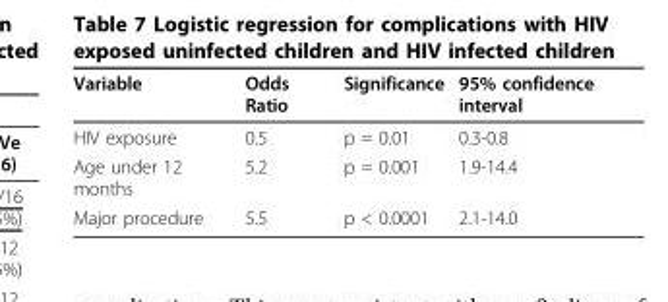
<table><thead><tr><td>Variable</td><td>Odds Ratio</td><td>Significance</td><td>95% confidence interval</td></tr></thead><tbody><tr><td>HIV exposure</td><td>0.5</td><td>p = 0.01</td><td>0.3-0.8</td></tr><tr><td>Age under 12 months</td><td>5.2</td><td>p = 0.001</td><td>1.9-14.4</td></tr><tr><td>Major procedure</td><td>5.5</td><td>p &lt; 0.0001</td><td>2.1-14.0</td></tr></tbody></table>